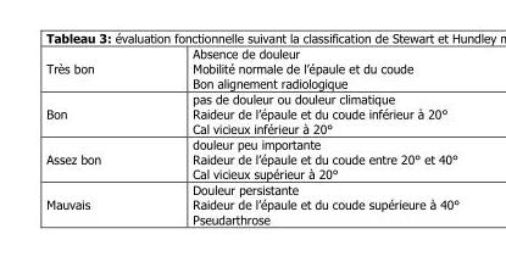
<table><tbody><tr><td>Très bon</td><td>Absence de douleur Mobilité normale de l’épaule et du coude Bon alignement radiologique</td></tr><tr><td>Bon</td><td>pas de douleur ou douleur climatique Raideur de l’épaule et du coude inférieur à 20° Cal vicieux inférieur à 20°</td></tr><tr><td>Assez bon</td><td>douleur peu importante Raideur de l’épaule et du coude entre 20° et 40° Cal vicieux supérieur à 20°</td></tr><tr><td>Mauvais</td><td>Douleur persistante Raideur de l’épaule et du coude supérieure à 40° Pseudarthrose</td></tr></tbody></table>